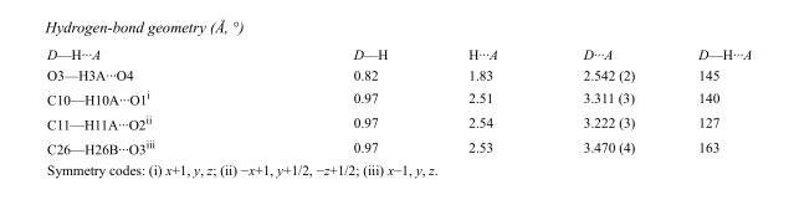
<table><tbody><tr><td>D—H···A</td><td>D—H</td><td>H···A</td><td>D···A</td><td>D—H···A</td></tr><tr><td>O3—H3A···O4</td><td>0.82</td><td>1.83</td><td>2.542 (2)</td><td>145</td></tr><tr><td>C10—H10A···O1<sup>i</sup></td><td>0.97</td><td>2.51</td><td>3.311 (3)</td><td>140</td></tr><tr><td>C11—H11A···O2<sup>ii</sup></td><td>0.97</td><td>2.54</td><td>3.222 (3)</td><td>127</td></tr><tr><td>C26—H26B···O3<sup>iii</sup></td><td>0.97</td><td>2.53</td><td>3.470 (4)</td><td>163</td></tr></tbody></table>